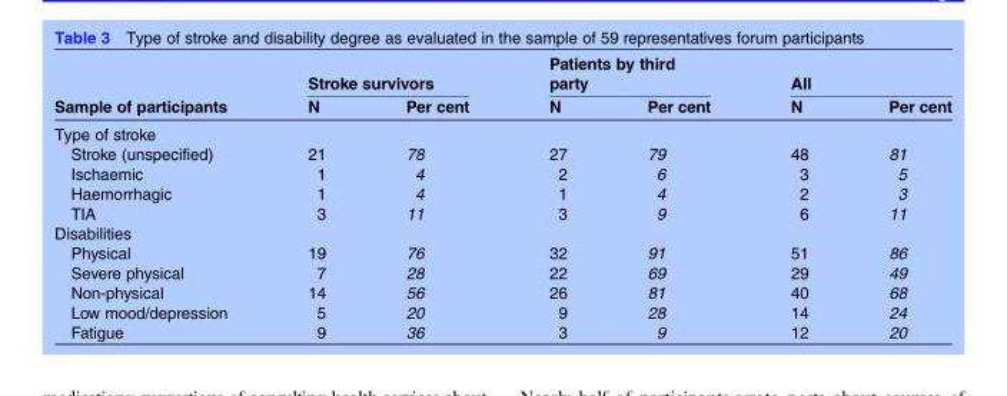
<table><thead><tr><td rowspan="2">Sample of participants</td><td colspan="2">Stroke survivors</td><td colspan="2">Patients by third party</td><td colspan="2">All</td></tr><tr><td>N</td><td>Per cent</td><td>N</td><td>Per cent</td><td>N</td><td>Per cent</td></tr></thead><tbody><tr><td colspan="7">Type of stroke</td></tr><tr><td>Stroke (unspecified)</td><td>21</td><td>78</td><td>27</td><td>79</td><td>48</td><td>81</td></tr><tr><td>Ischaemic</td><td>1</td><td>4</td><td>2</td><td>6</td><td>3</td><td>5</td></tr><tr><td>Haemorrhagic</td><td>1</td><td>4</td><td>1</td><td>4</td><td>2</td><td>3</td></tr><tr><td>TIA</td><td>3</td><td>11</td><td>3</td><td>9</td><td>6</td><td>11</td></tr><tr><td colspan="7">Disabilities</td></tr><tr><td>Physical</td><td>19</td><td>76</td><td>32</td><td>91</td><td>51</td><td>86</td></tr><tr><td>Severe physical</td><td>7</td><td>28</td><td>22</td><td>69</td><td>29</td><td>49</td></tr><tr><td>Non-physical</td><td>14</td><td>56</td><td>26</td><td>81</td><td>40</td><td>68</td></tr><tr><td>Low mood/depression</td><td>5</td><td>20</td><td>9</td><td>28</td><td>14</td><td>24</td></tr><tr><td>Fatigue</td><td>9</td><td>36</td><td>3</td><td>9</td><td>12</td><td>20</td></tr></tbody></table>